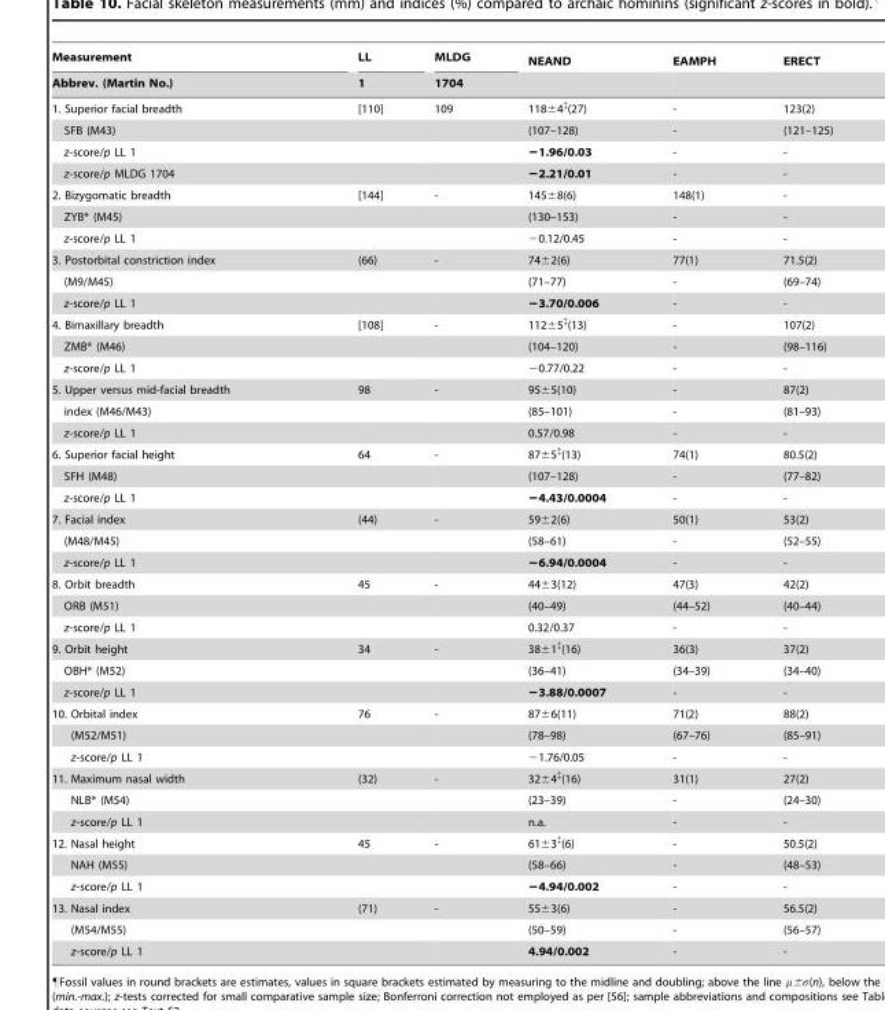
<table><thead><tr><td rowspan="2">Measurement Abbrev. (Martin No.)</td><td rowspan="2">LL 1</td><td rowspan="2">MLDG 1704</td><td rowspan="2">NEAND</td><td rowspan="2">EAMPH</td><td rowspan="2">ERECT</td></tr><tr></tr></thead><tbody><tr><td>1. Superior facial breadth</td><td>[110]</td><td>109</td><td>118±4‡(27)</td><td>-</td><td>123(2)</td></tr><tr><td>SFB (M43)</td><td></td><td></td><td>(107–128)</td><td>-</td><td>(121–125)</td></tr><tr><td>z-score/p LL 1</td><td></td><td></td><td>−1.96/0.03</td><td>-</td><td>-</td></tr><tr><td>z-score/p MLDG 1704</td><td></td><td></td><td>−2.21/0.01</td><td>-</td><td>-</td></tr><tr><td>2. Bizygomatic breadth</td><td>[144]</td><td>-</td><td>145±8(6)</td><td>148(1)</td><td>-</td></tr><tr><td>ZYB* (M45)</td><td></td><td></td><td>(130–153)</td><td>-</td><td>-</td></tr><tr><td>z-score/p LL 1</td><td></td><td></td><td>−0.12/0.45</td><td>-</td><td>-</td></tr><tr><td>3. Postorbital constriction index</td><td>(66)</td><td>-</td><td>74±2(6)</td><td>77(1)</td><td>71.5(2)</td></tr><tr><td>(M9/M45)</td><td></td><td></td><td>(71–77)</td><td>-</td><td>(69–74)</td></tr><tr><td>z-score/p LL 1</td><td></td><td></td><td>−3.70/0.006</td><td>-</td><td>-</td></tr><tr><td>4. Bimaxillary breadth</td><td>[108]</td><td>-</td><td>112±5‡(13)</td><td>-</td><td>107(2)</td></tr><tr><td>ZMB* (M46)</td><td></td><td></td><td>(104–120)</td><td>-</td><td>(98–116)</td></tr><tr><td>z-score/p LL 1</td><td></td><td></td><td>−0.77/0.22</td><td>-</td><td>-</td></tr><tr><td>5. Upper versus mid-facial breadth</td><td>98</td><td>-</td><td>95±5(10)</td><td>-</td><td>87(2)</td></tr><tr><td>index (M46/M43)</td><td></td><td></td><td>(85–101)</td><td>-</td><td>(81–93)</td></tr><tr><td>z-score/p LL 1</td><td></td><td></td><td>0.57/0.98</td><td>-</td><td>-</td></tr><tr><td>6. Superior facial height</td><td>64</td><td>-</td><td>87±5‡(13)</td><td>74(1)</td><td>80.5(2)</td></tr><tr><td>SFH (M48)</td><td></td><td></td><td>(107–128)</td><td>-</td><td>(77–82)</td></tr><tr><td>z-score/p LL 1</td><td></td><td></td><td>−4.43/0.0004</td><td>-</td><td>-</td></tr><tr><td>7. Facial index</td><td>(44)</td><td>-</td><td>59±2(6)</td><td>50(1)</td><td>53(2)</td></tr><tr><td>(M48/M45)</td><td></td><td></td><td>(58–61)</td><td>-</td><td>(52–55)</td></tr><tr><td>z-score/p LL 1</td><td></td><td></td><td>−6.94/0.0004</td><td>-</td><td>-</td></tr><tr><td>8. Orbit breadth</td><td>45</td><td>-</td><td>44±3(12)</td><td>47(3)</td><td>42(2)</td></tr><tr><td>ORB (M51)</td><td></td><td></td><td>(40–49)</td><td>(44–52)</td><td>(40–44)</td></tr><tr><td>z-score/p LL 1</td><td></td><td></td><td>0.32/0.37</td><td>-</td><td>-</td></tr><tr><td>9. Orbit height</td><td>34</td><td>-</td><td>38±1‡(16)</td><td>36(3)</td><td>37(2)</td></tr><tr><td>OBH* (M52)</td><td></td><td></td><td>(36–41)</td><td>(34–39)</td><td>(34–40)</td></tr><tr><td>z-score/p LL 1</td><td></td><td></td><td>−3.88/0.0007</td><td>-</td><td>-</td></tr><tr><td>10. Orbital index</td><td>76</td><td>-</td><td>87±6(11)</td><td>71(2)</td><td>88(2)</td></tr><tr><td>(M52/M51)</td><td></td><td></td><td>(78–98)</td><td>(67–76)</td><td>(85–91)</td></tr><tr><td>z-score/p LL 1</td><td></td><td></td><td>−1.76/0.05</td><td>-</td><td>-</td></tr><tr><td>11. Maximum nasal width</td><td>(32)</td><td>-</td><td>32±4‡(16)</td><td>31(1)</td><td>27(2)</td></tr><tr><td>NLB* (M54)</td><td></td><td></td><td>(23–39)</td><td>-</td><td>(24–30)</td></tr><tr><td>z-score/p LL 1</td><td></td><td></td><td>n.a.</td><td>-</td><td>-</td></tr><tr><td>12. Nasal height</td><td>45</td><td>-</td><td>61±3‡(6)</td><td>-</td><td>50.5(2)</td></tr><tr><td>NAH (M55)</td><td></td><td></td><td>(58–66)</td><td>-</td><td>(48–53)</td></tr><tr><td>z-score/p LL 1</td><td></td><td></td><td>−4.94/0.002</td><td>-</td><td>-</td></tr><tr><td>13. Nasal index</td><td>(71)</td><td>-</td><td>55±3(6)</td><td>-</td><td>56.5(2)</td></tr><tr><td>(M54/M55)</td><td></td><td></td><td>(50–59)</td><td>-</td><td>(56–57)</td></tr><tr><td>z-score/p LL 1</td><td></td><td></td><td>4.94/0.002</td><td>-</td><td>-</td></tr></tbody></table>